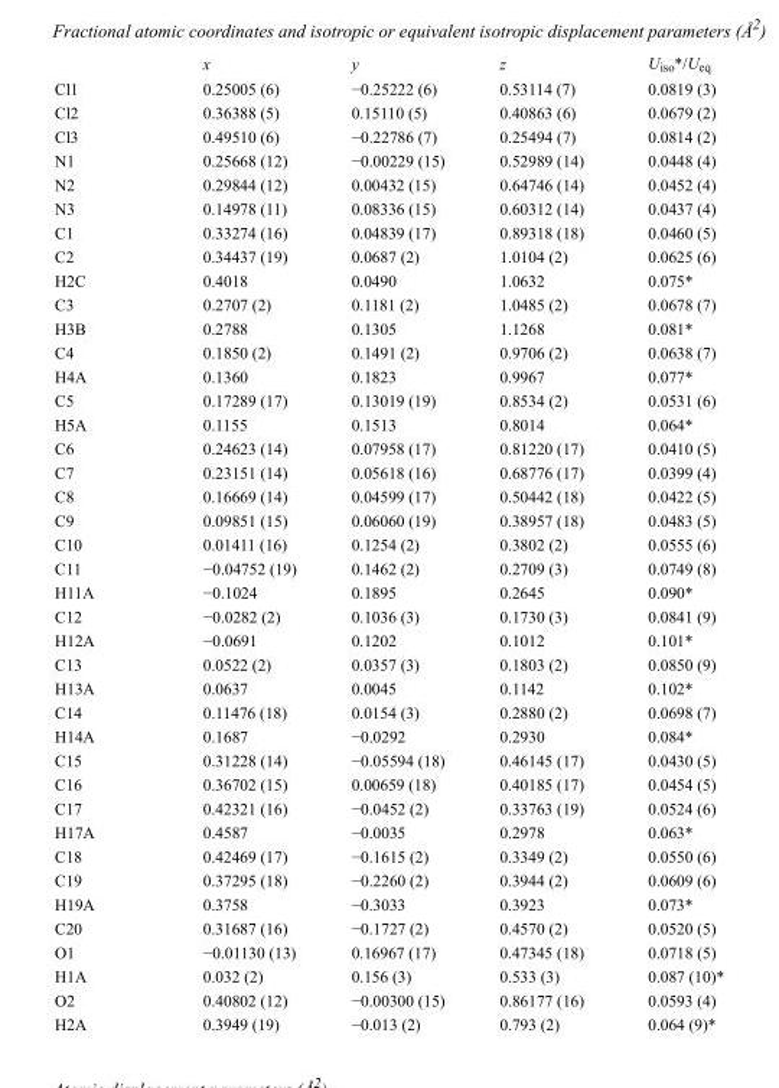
<table><thead><tr><td></td><td>x</td><td>y</td><td>z</td><td>U<sub>iso</sub>*/U<sub>eq</sub></td></tr></thead><tbody><tr><td>Cl1</td><td>0.25005 (6)</td><td>−0.25222 (6)</td><td>0.53114 (7)</td><td>0.0819 (3)</td></tr><tr><td>Cl2</td><td>0.36388 (5)</td><td>0.15110 (5)</td><td>0.40863 (6)</td><td>0.0679 (2)</td></tr><tr><td>Cl3</td><td>0.49510 (6)</td><td>−0.22786 (7)</td><td>0.25494 (7)</td><td>0.0814 (2)</td></tr><tr><td>N1</td><td>0.25668 (12)</td><td>−0.00229 (15)</td><td>0.52989 (14)</td><td>0.0448 (4)</td></tr><tr><td>N2</td><td>0.29844 (12)</td><td>0.00432 (15)</td><td>0.64746 (14)</td><td>0.0452 (4)</td></tr><tr><td>N3</td><td>0.14978 (11)</td><td>0.08336 (15)</td><td>0.60312 (14)</td><td>0.0437 (4)</td></tr><tr><td>C1</td><td>0.33274 (16)</td><td>0.04839 (17)</td><td>0.89318 (18)</td><td>0.0460 (5)</td></tr><tr><td>C2</td><td>0.34437 (19)</td><td>0.0687 (2)</td><td>1.0104 (2)</td><td>0.0625 (6)</td></tr><tr><td>H2C</td><td>0.4018</td><td>0.0490</td><td>1.0632</td><td>0.075*</td></tr><tr><td>C3</td><td>0.2707 (2)</td><td>0.1181 (2)</td><td>1.0485 (2)</td><td>0.0678 (7)</td></tr><tr><td>H3B</td><td>0.2788</td><td>0.1305</td><td>1.1268</td><td>0.081*</td></tr><tr><td>C4</td><td>0.1850 (2)</td><td>0.1491 (2)</td><td>0.9706 (2)</td><td>0.0638 (7)</td></tr><tr><td>H4A</td><td>0.1360</td><td>0.1823</td><td>0.9967</td><td>0.077*</td></tr><tr><td>C5</td><td>0.17289 (17)</td><td>0.13019 (19)</td><td>0.8534 (2)</td><td>0.0531 (6)</td></tr><tr><td>H5A</td><td>0.1155</td><td>0.1513</td><td>0.8014</td><td>0.064*</td></tr><tr><td>C6</td><td>0.24623 (14)</td><td>0.07958 (17)</td><td>0.81220 (17)</td><td>0.0410 (5)</td></tr><tr><td>C7</td><td>0.23151 (14)</td><td>0.05618 (16)</td><td>0.68776 (17)</td><td>0.0399 (4)</td></tr><tr><td>C8</td><td>0.16669 (14)</td><td>0.04599 (17)</td><td>0.50442 (18)</td><td>0.0422 (5)</td></tr><tr><td>C9</td><td>0.09851 (15)</td><td>0.06060 (19)</td><td>0.38957 (18)</td><td>0.0483 (5)</td></tr><tr><td>C10</td><td>0.01411 (16)</td><td>0.1254 (2)</td><td>0.3802 (2)</td><td>0.0555 (6)</td></tr><tr><td>C11</td><td>−0.04752 (19)</td><td>0.1462 (2)</td><td>0.2709 (3)</td><td>0.0749 (8)</td></tr><tr><td>H11A</td><td>−0.1024</td><td>0.1895</td><td>0.2645</td><td>0.090*</td></tr><tr><td>C12</td><td>−0.0282 (2)</td><td>0.1036 (3)</td><td>0.1730 (3)</td><td>0.0841 (9)</td></tr><tr><td>H12A</td><td>−0.0691</td><td>0.1202</td><td>0.1012</td><td>0.101*</td></tr><tr><td>C13</td><td>0.0522 (2)</td><td>0.0357 (3)</td><td>0.1803 (2)</td><td>0.0850 (9)</td></tr><tr><td>H13A</td><td>0.0637</td><td>0.0045</td><td>0.1142</td><td>0.102*</td></tr><tr><td>C14</td><td>0.11476 (18)</td><td>0.0154 (3)</td><td>0.2880 (2)</td><td>0.0698 (7)</td></tr><tr><td>H14A</td><td>0.1687</td><td>−0.0292</td><td>0.2930</td><td>0.084*</td></tr><tr><td>C15</td><td>0.31228 (14)</td><td>−0.05594 (18)</td><td>0.46145 (17)</td><td>0.0430 (5)</td></tr><tr><td>C16</td><td>0.36702 (15)</td><td>0.00659 (18)</td><td>0.40185 (17)</td><td>0.0454 (5)</td></tr><tr><td>C17</td><td>0.42321 (16)</td><td>−0.0452 (2)</td><td>0.33763 (19)</td><td>0.0524 (6)</td></tr><tr><td>H17A</td><td>0.4587</td><td>−0.0035</td><td>0.2978</td><td>0.063*</td></tr><tr><td>C18</td><td>0.42469 (17)</td><td>−0.1615 (2)</td><td>0.3349 (2)</td><td>0.0550 (6)</td></tr><tr><td>C19</td><td>0.37295 (18)</td><td>−0.2260 (2)</td><td>0.3944 (2)</td><td>0.0609 (6)</td></tr><tr><td>H19A</td><td>0.3758</td><td>−0.3033</td><td>0.3923</td><td>0.073*</td></tr><tr><td>C20</td><td>0.31687 (16)</td><td>−0.1727 (2)</td><td>0.4570 (2)</td><td>0.0520 (5)</td></tr><tr><td>O1</td><td>−0.01130 (13)</td><td>0.16967 (17)</td><td>0.47345 (18)</td><td>0.0718 (5)</td></tr><tr><td>H1A</td><td>0.032 (2)</td><td>0.156 (3)</td><td>0.533 (3)</td><td>0.087 (10)*</td></tr><tr><td>O2</td><td>0.40802 (12)</td><td>−0.00300 (15)</td><td>0.86177 (16)</td><td>0.0593 (4)</td></tr><tr><td>H2A</td><td>0.3949 (19)</td><td>−0.013 (2)</td><td>0.793 (2)</td><td>0.064 (9)*</td></tr></tbody></table>